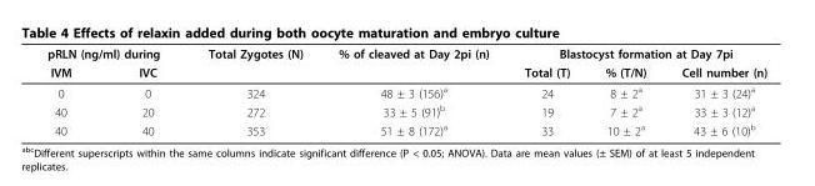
<table><thead><tr><td colspan="2">pRLN (ng/ml) during</td><td rowspan="2">Total Zygotes (N)</td><td rowspan="2">% of cleaved at Day 2pi (n)</td><td colspan="3">Blastocyst formation at Day 7pi</td></tr><tr><td>IVM</td><td>IVC</td><td>Total (T)</td><td>% (T/N)</td><td>Cell number (n)</td></tr></thead><tbody><tr><td>0</td><td>0</td><td>324</td><td>48 ± 3 (156)<sup>a</sup></td><td>24</td><td>8 ± 2<sup>a</sup></td><td>31 ± 3 (24)<sup>a</sup></td></tr><tr><td>40</td><td>20</td><td>272</td><td>33 ± 5 (91)<sup>b</sup></td><td>19</td><td>7 ± 2<sup>a</sup></td><td>33 ± 3 (12)<sup>a</sup></td></tr><tr><td>40</td><td>40</td><td>353</td><td>51 ± 8 (172)<sup>a</sup></td><td>33</td><td>10 ± 2<sup>a</sup></td><td>43 ± 6 (10)<sup>b</sup></td></tr></tbody></table>